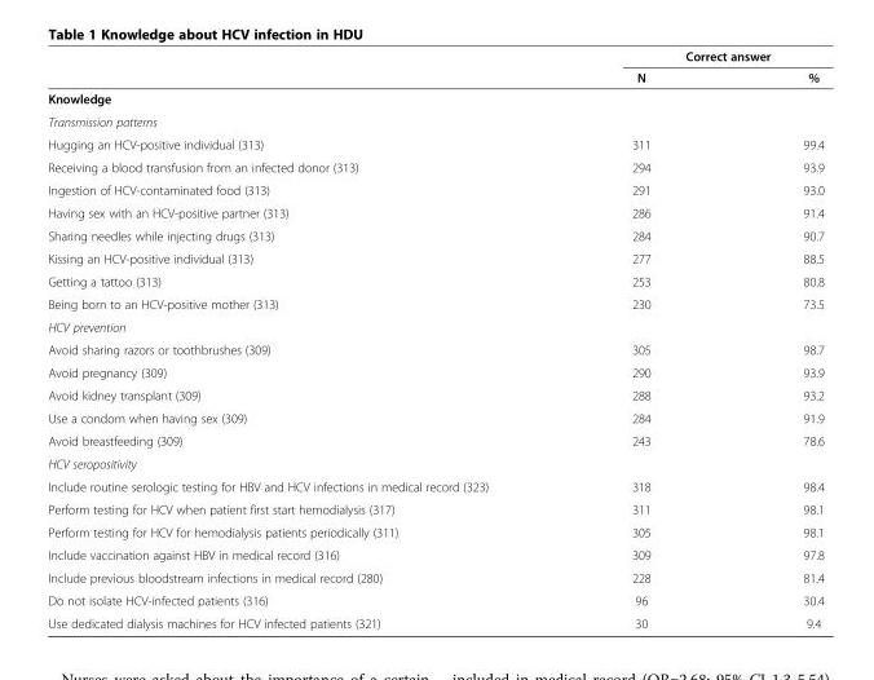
<table><thead><tr><td rowspan="2"></td><td colspan="2">Correct answer</td></tr><tr><td>N</td><td>%</td></tr></thead><tbody><tr><td colspan="3">Knowledge</td></tr><tr><td colspan="3">Transmission patterns</td></tr><tr><td>Hugging an HCV-positive individual (313)</td><td>311</td><td>99.4</td></tr><tr><td>Receiving a blood transfusion from an infected donor (313)</td><td>294</td><td>93.9</td></tr><tr><td>Ingestion of HCV-contaminated food (313)</td><td>291</td><td>93.0</td></tr><tr><td>Having sex with an HCV-positive partner (313)</td><td>286</td><td>91.4</td></tr><tr><td>Sharing needles while injecting drugs (313)</td><td>284</td><td>90.7</td></tr><tr><td>Kissing an HCV-positive individual (313)</td><td>277</td><td>88.5</td></tr><tr><td>Getting a tattoo (313)</td><td>253</td><td>80.8</td></tr><tr><td>Being born to an HCV-positive mother (313)</td><td>230</td><td>73.5</td></tr><tr><td colspan="3">HCV prevention</td></tr><tr><td>Avoid sharing razors or toothbrushes (309)</td><td>305</td><td>98.7</td></tr><tr><td>Avoid pregnancy (309)</td><td>290</td><td>93.9</td></tr><tr><td>Avoid kidney transplant (309)</td><td>288</td><td>93.2</td></tr><tr><td>Use a condom when having sex (309)</td><td>284</td><td>91.9</td></tr><tr><td>Avoid breastfeeding (309)</td><td>243</td><td>78.6</td></tr><tr><td colspan="3">HCV seropositivity</td></tr><tr><td>Include routine serologic testing for HBV and HCV infections in medical record (323)</td><td>318</td><td>98.4</td></tr><tr><td>Perform testing for HCV when patient first start hemodialysis (317)</td><td>311</td><td>98.1</td></tr><tr><td>Perform testing for HCV for hemodialysis patients periodically (311)</td><td>305</td><td>98.1</td></tr><tr><td>Include vaccination against HBV in medical record (316)</td><td>309</td><td>97.8</td></tr><tr><td>Include previous bloodstream infections in medical record (280)</td><td>228</td><td>81.4</td></tr><tr><td>Do not isolate HCV-infected patients (316)</td><td>96</td><td>30.4</td></tr><tr><td>Use dedicated dialysis machines for HCV infected patients (321)</td><td>30</td><td>9.4</td></tr></tbody></table>